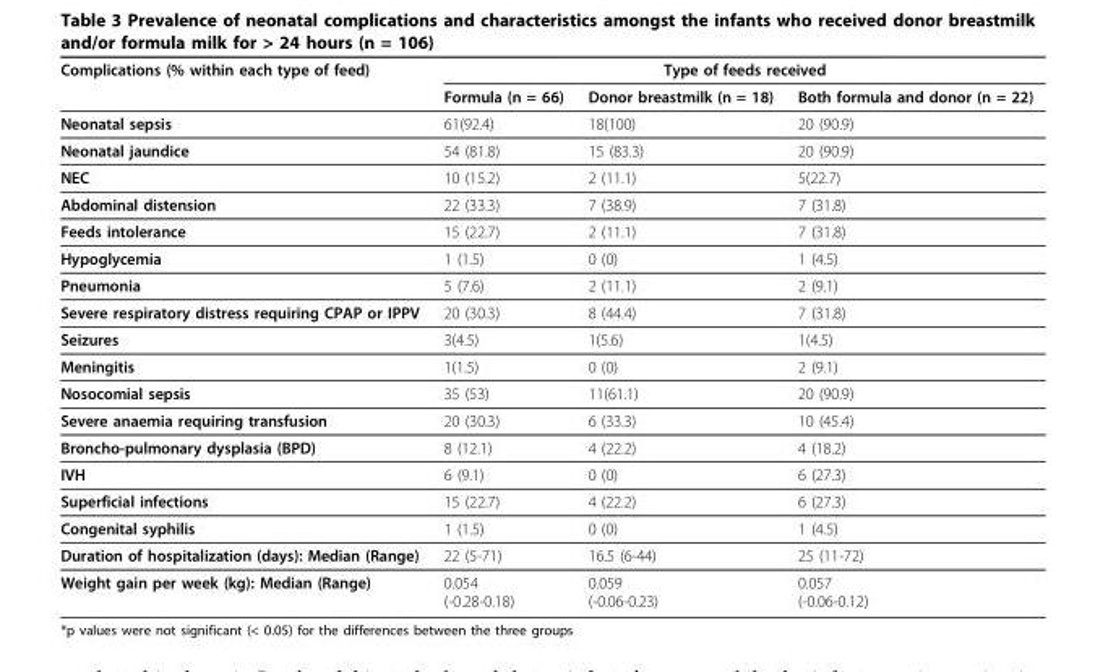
<table><thead><tr><td rowspan="2">Complications (% within each type of feed)</td><td colspan="3">Type of feeds received</td></tr><tr><td>Formula (n = 66)</td><td>Donor breastmilk (n = 18)</td><td>Both formula and donor (n = 22)</td></tr></thead><tbody><tr><td>Neonatal sepsis</td><td>61(92.4)</td><td>18(100)</td><td>20 (90.9)</td></tr><tr><td>Neonatal jaundice</td><td>54 (81.8)</td><td>15 (83.3)</td><td>20 (90.9)</td></tr><tr><td>NEC</td><td>10 (15.2)</td><td>2 (11.1)</td><td>5(22.7)</td></tr><tr><td>Abdominal distension</td><td>22 (33.3)</td><td>7 (38.9)</td><td>7 (31.8)</td></tr><tr><td>Feeds intolerance</td><td>15 (22.7)</td><td>2 (11.1)</td><td>7 (31.8)</td></tr><tr><td>Hypoglycemia</td><td>1 (1.5)</td><td>0 (0)</td><td>1 (4.5)</td></tr><tr><td>Pneumonia</td><td>5 (7.6)</td><td>2 (11.1)</td><td>2 (9.1)</td></tr><tr><td>Severe respiratory distress requiring CPAP or IPPV</td><td>20 (30.3)</td><td>8 (44.4)</td><td>7 (31.8)</td></tr><tr><td>Seizures</td><td>3(4.5)</td><td>1(5.6)</td><td>1(4.5)</td></tr><tr><td>Meningitis</td><td>1(1.5)</td><td>0 (0)</td><td>2 (9.1)</td></tr><tr><td>Nosocomial sepsis</td><td>35 (53)</td><td>11(61.1)</td><td>20 (90.9)</td></tr><tr><td>Severe anaemia requiring transfusion</td><td>20 (30.3)</td><td>6 (33.3)</td><td>10 (45.4)</td></tr><tr><td>Broncho-pulmonary dysplasia (BPD)</td><td>8 (12.1)</td><td>4 (22.2)</td><td>4 (18.2)</td></tr><tr><td>IVH</td><td>6 (9.1)</td><td>0 (0)</td><td>6 (27.3)</td></tr><tr><td>Superficial infections</td><td>15 (22.7)</td><td>4 (22.2)</td><td>6 (27.3)</td></tr><tr><td>Congenital syphilis</td><td>1 (1.5)</td><td>0 (0)</td><td>1 (4.5)</td></tr><tr><td>Duration of hospitalization (days): Median (Range)</td><td>22 (5-71)</td><td>16.5 (6-44)</td><td>25 (11-72)</td></tr><tr><td>Weight gain per week (kg): Median (Range)</td><td>0.054 (-0.28-0.18)</td><td>0.059 (-0.06-0.23)</td><td>0.057 (-0.06-0.12)</td></tr></tbody></table>